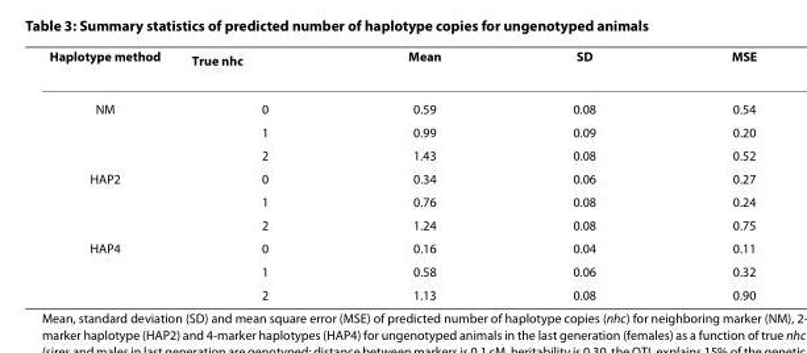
<table><thead><tr><td>Haplotype method</td><td>True nhc</td><td>Mean</td><td>SD</td><td>MSE</td></tr></thead><tbody><tr><td rowspan="3">NM</td><td>0</td><td>0.59</td><td>0.08</td><td>0.54</td></tr><tr><td>1</td><td>0.99</td><td>0.09</td><td>0.20</td></tr><tr><td>2</td><td>1.43</td><td>0.08</td><td>0.52</td></tr><tr><td rowspan="3">HAP2</td><td>0</td><td>0.34</td><td>0.06</td><td>0.27</td></tr><tr><td>1</td><td>0.76</td><td>0.08</td><td>0.24</td></tr><tr><td>2</td><td>1.24</td><td>0.08</td><td>0.75</td></tr><tr><td rowspan="3">HAP4</td><td>0</td><td>0.16</td><td>0.04</td><td>0.11</td></tr><tr><td>1</td><td>0.58</td><td>0.06</td><td>0.32</td></tr><tr><td>2</td><td>1.13</td><td>0.08</td><td>0.90</td></tr></tbody></table>